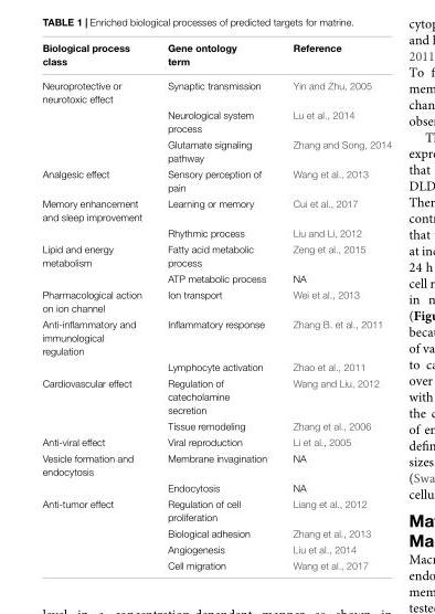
<table><thead><tr><td>Biological process class</td><td>Gene ontology term</td><td>Reference</td></tr></thead><tbody><tr><td rowspan="3">Neuroprotective or neurotoxic effect</td><td>Synaptic transmission</td><td>Yin and Zhu, 2005</td></tr><tr><td>Neurological system process</td><td>Lu et al., 2014</td></tr><tr><td>Glutamate signaling pathway</td><td>Zhang and Song, 2014</td></tr><tr><td>Analgesic effect</td><td>Sensory perception of pain</td><td>Wang et al., 2013</td></tr><tr><td rowspan="2">Memory enhancement and sleep improvement</td><td>Learning or memory</td><td>Cui et al., 2017</td></tr><tr><td>Rhythmic process</td><td>Liu and Li, 2012</td></tr><tr><td rowspan="2">Lipid and energy metabolism</td><td>Fatty acid metabolic process</td><td>Zeng et al., 2015</td></tr><tr><td>ATP metabolic process</td><td>NA</td></tr><tr><td>Pharmacological action on ion channel</td><td>Ion transport</td><td>Wei et al., 2013</td></tr><tr><td rowspan="2">Anti-inflammatory and immunological regulation</td><td>Inflammatory response</td><td>Zhang B. et al., 2011</td></tr><tr><td>Lymphocyte activation</td><td>Zhao et al., 2011</td></tr><tr><td rowspan="2">Cardiovascular effect</td><td>Regulation of catecholamine secretion</td><td>Wang and Liu, 2012</td></tr><tr><td>Tissue remodeling</td><td>Zhang et al., 2006</td></tr><tr><td>Anti-viral effect</td><td>Viral reproduction</td><td>Li et al., 2005</td></tr><tr><td rowspan="2">Vesicle formation and endocytosis</td><td>Membrane invagination</td><td>NA</td></tr><tr><td>Endocytosis</td><td>NA</td></tr><tr><td rowspan="4">Anti-tumor effect</td><td>Regulation of cell proliferation</td><td>Liang et al., 2012</td></tr><tr><td>Biological adhesion</td><td>Zhang et al., 2013</td></tr><tr><td>Angiogenesis</td><td>Liu et al., 2014</td></tr><tr><td>Cell migration</td><td>Wang et al., 2017</td></tr></tbody></table>